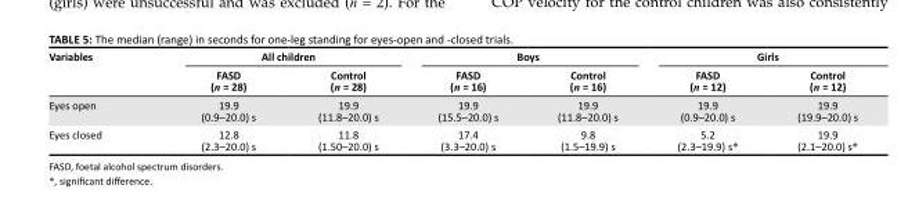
<table><thead><tr><td rowspan="2">Variables</td><td colspan="2">All children</td><td colspan="2">Boys</td><td colspan="2">Girls</td></tr><tr><td>FASD (n = 28)</td><td>Control (n = 28)</td><td>FASD (n = 16)</td><td>Control (n = 16)</td><td>FASD (n = 12)</td><td>Control (n = 12)</td></tr></thead><tbody><tr><td>Eyes open</td><td>19.9 (0.9–20.0) s</td><td>19.9 (11.8–20.0) s</td><td>19.9 (15.5–20.0) s</td><td>19.9 (11.8–20.0) s</td><td>19.9 (0.9–20.0) s</td><td>19.9 (19.9–20.0) s</td></tr><tr><td>Eyes closed</td><td>12.8 (2.3–20.0) s</td><td>11.8 (1.50–20.0) s</td><td>17.4 (3.3–20.0) s</td><td>9.8 (1.5–19.9) s</td><td>5.2 (2.3–19.9) s*</td><td>19.9 (2.1–20.0) s*</td></tr></tbody></table>